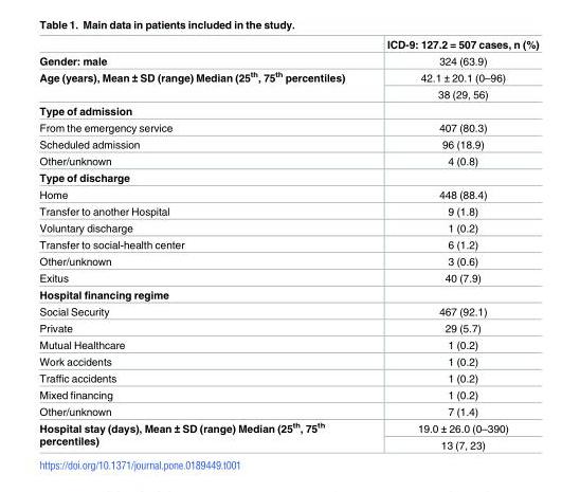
<table><thead><tr><td></td><td>ICD-9: 127.2 = 507 cases, n (%)</td></tr></thead><tbody><tr><td>Gender: male</td><td>324 (63.9)</td></tr><tr><td rowspan="2">Age (years), Mean ± SD (range) Median (25<sup>th</sup>, 75<sup>th</sup> percentiles)</td><td>42.1 ± 20.1 (0–96)</td></tr><tr><td>38 (29, 56)</td></tr><tr><td colspan="2">Type of admission</td></tr><tr><td>From the emergency service</td><td>407 (80.3)</td></tr><tr><td>Scheduled admission</td><td>96 (18.9)</td></tr><tr><td>Other/unknown</td><td>4 (0.8)</td></tr><tr><td colspan="2">Type of discharge</td></tr><tr><td>Home</td><td>448 (88.4)</td></tr><tr><td>Transfer to another Hospital</td><td>9 (1.8)</td></tr><tr><td>Voluntary discharge</td><td>1 (0.2)</td></tr><tr><td>Transfer to social-health center</td><td>6 (1.2)</td></tr><tr><td>Other/unknown</td><td>3 (0.6)</td></tr><tr><td>Exitus</td><td>40 (7.9)</td></tr><tr><td colspan="2">Hospital financing regime</td></tr><tr><td>Social Security</td><td>467 (92.1)</td></tr><tr><td>Private</td><td>29 (5.7)</td></tr><tr><td>Mutual Healthcare</td><td>1 (0.2)</td></tr><tr><td>Work accidents</td><td>1 (0.2)</td></tr><tr><td>Traffic accidents</td><td>1 (0.2)</td></tr><tr><td>Mixed financing</td><td>1 (0.2)</td></tr><tr><td>Other/unknown</td><td>7 (1.4)</td></tr><tr><td rowspan="2">Hospital stay (days), Mean ± SD (range) Median (25<sup>th</sup>, 75<sup>th</sup> percentiles)</td><td>19.0 ± 26.0 (0–390)</td></tr><tr><td>13 (7, 23)</td></tr></tbody></table>